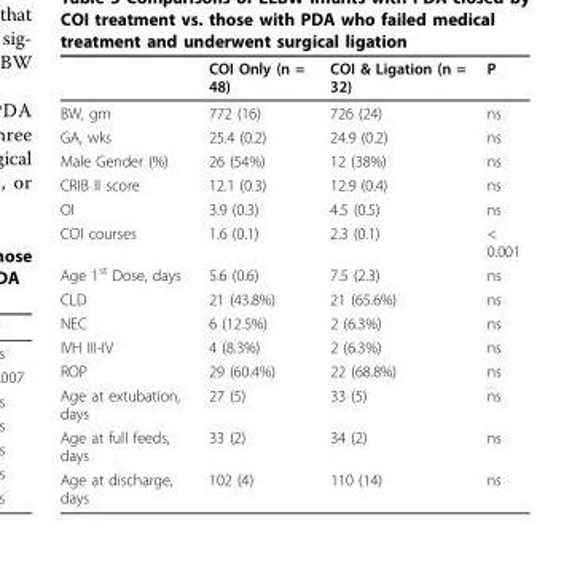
<table><thead><tr><td></td><td>COI Only (n = 48)</td><td>COI &amp; Ligation (n = 32)</td><td>P</td></tr></thead><tbody><tr><td>BW, gm</td><td>772 (16)</td><td>726 (24)</td><td>ns</td></tr><tr><td>GA, wks</td><td>25.4 (0.2)</td><td>24.9 (0.2)</td><td>ns</td></tr><tr><td>Male Gender (%)</td><td>26 (54%)</td><td>12 (38%)</td><td>ns</td></tr><tr><td>CRIB II score</td><td>12.1 (0.3)</td><td>12.9 (0.4)</td><td>ns</td></tr><tr><td>OI</td><td>3.9 (0.3)</td><td>4.5 (0.5)</td><td>ns</td></tr><tr><td>COI courses</td><td>1.6 (0.1)</td><td>2.3 (0.1)</td><td>&lt; 0.001</td></tr><tr><td>Age 1<sup>st</sup> Dose, days</td><td>5.6 (0.6)</td><td>7.5 (2.3)</td><td>ns</td></tr><tr><td>CLD</td><td>21 (43.8%)</td><td>21 (65.6%)</td><td>ns</td></tr><tr><td>NEC</td><td>6 (12.5%)</td><td>2 (6.3%)</td><td>ns</td></tr><tr><td>IVH III-IV</td><td>4 (8.3%)</td><td>2 (6.3%)</td><td>ns</td></tr><tr><td>ROP</td><td>29 (60.4%)</td><td>22 (68.8%)</td><td>ns</td></tr><tr><td>Age at extubation, days</td><td>27 (5)</td><td>33 (5)</td><td>ns</td></tr><tr><td>Age at full feeds, days</td><td>33 (2)</td><td>34 (2)</td><td>ns</td></tr><tr><td>Age at discharge, days</td><td>102 (4)</td><td>110 (14)</td><td>ns</td></tr></tbody></table>